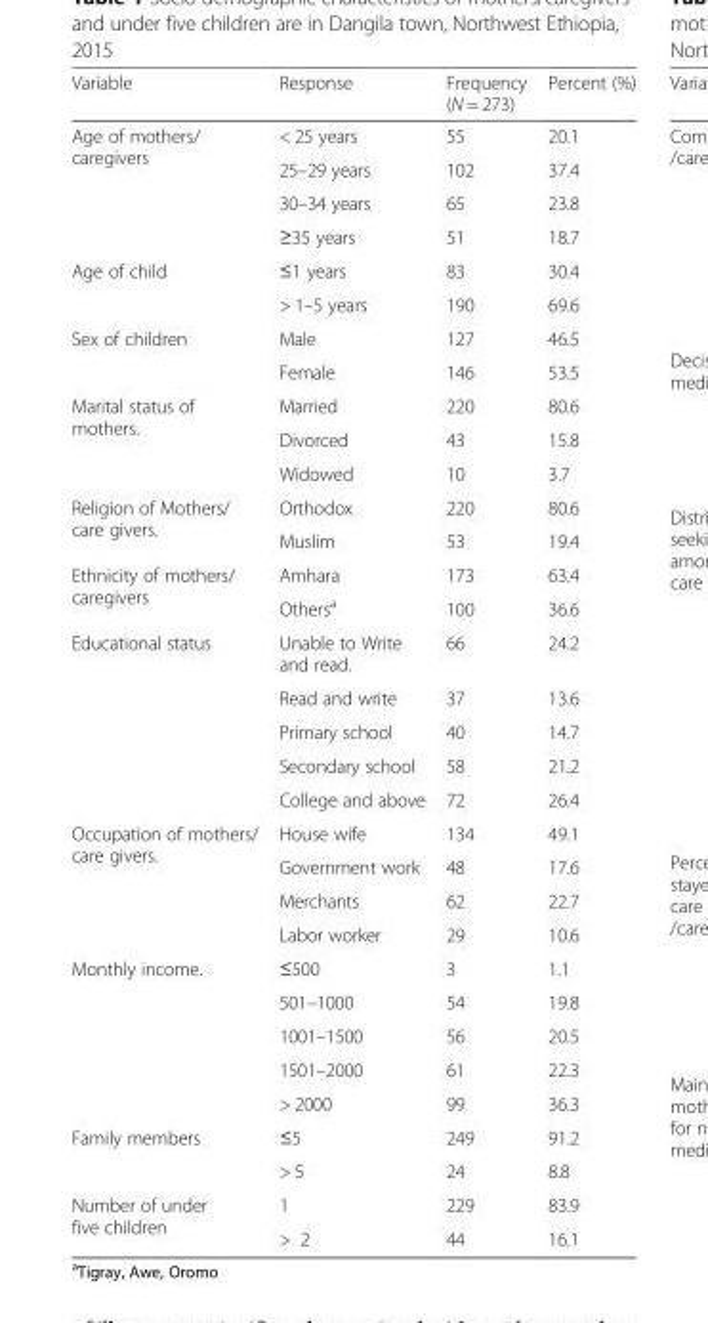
<table><thead><tr><td>Variable</td><td>Response</td><td>Frequency (N = 273)</td><td>Percent (%)</td></tr></thead><tbody><tr><td rowspan="4">Age of mothers/ caregivers</td><td>&lt; 25 years</td><td>55</td><td>20.1</td></tr><tr><td>25–29 years</td><td>102</td><td>37.4</td></tr><tr><td>30–34 years</td><td>65</td><td>23.8</td></tr><tr><td>≥35 years</td><td>51</td><td>18.7</td></tr><tr><td rowspan="2">Age of child</td><td>≤1 years</td><td>83</td><td>30.4</td></tr><tr><td>&gt; 1–5 years</td><td>190</td><td>69.6</td></tr><tr><td rowspan="2">Sex of children</td><td>Male</td><td>127</td><td>46.5</td></tr><tr><td>Female</td><td>146</td><td>53.5</td></tr><tr><td rowspan="3">Marital status of mothers.</td><td>Married</td><td>220</td><td>80.6</td></tr><tr><td>Divorced</td><td>43</td><td>15.8</td></tr><tr><td>Widowed</td><td>10</td><td>3.7</td></tr><tr><td rowspan="2">Religion of Mothers/ care givers.</td><td>Orthodox</td><td>220</td><td>80.6</td></tr><tr><td>Muslim</td><td>53</td><td>19.4</td></tr><tr><td rowspan="2">Ethnicity of mothers/ caregivers</td><td>Amhara</td><td>173</td><td>63.4</td></tr><tr><td>Others<sup>a</sup></td><td>100</td><td>36.6</td></tr><tr><td rowspan="5">Educational status</td><td>Unable to Write and read.</td><td>66</td><td>24.2</td></tr><tr><td>Read and write</td><td>37</td><td>13.6</td></tr><tr><td>Primary school</td><td>40</td><td>14.7</td></tr><tr><td>Secondary school</td><td>58</td><td>21.2</td></tr><tr><td>College and above</td><td>72</td><td>26.4</td></tr><tr><td rowspan="4">Occupation of mothers/ care givers.</td><td>House wife</td><td>134</td><td>49.1</td></tr><tr><td>Government work</td><td>48</td><td>17.6</td></tr><tr><td>Merchants</td><td>62</td><td>22.7</td></tr><tr><td>Labor worker</td><td>29</td><td>10.6</td></tr><tr><td rowspan="5">Monthly income.</td><td>≤500</td><td>3</td><td>1.1</td></tr><tr><td>501–1000</td><td>54</td><td>19.8</td></tr><tr><td>1001–1500</td><td>56</td><td>20.5</td></tr><tr><td>1501–2000</td><td>61</td><td>22.3</td></tr><tr><td>&gt; 2000</td><td>99</td><td>36.3</td></tr><tr><td rowspan="2">Family members</td><td>≤5</td><td>249</td><td>91.2</td></tr><tr><td>&gt; 5</td><td>24</td><td>8.8</td></tr><tr><td rowspan="2">Number of under five children</td><td>1</td><td>229</td><td>83.9</td></tr><tr><td>&gt; 2</td><td>44</td><td>16.1</td></tr></tbody></table>